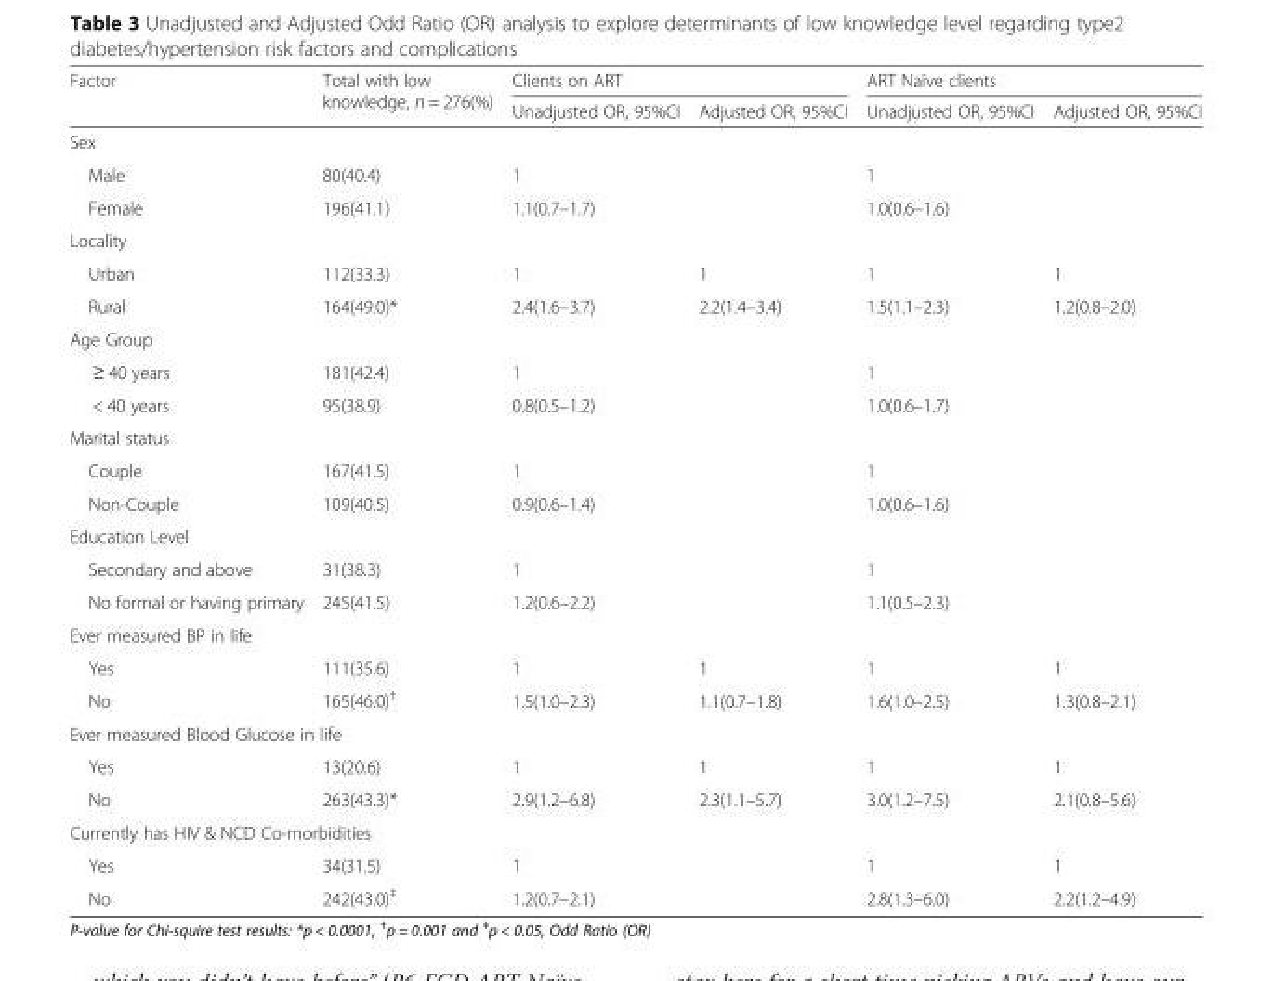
<table><thead><tr><td rowspan="2">Factor</td><td rowspan="2">Total with low knowledge, n = 276(%)</td><td colspan="2">Clients on ART</td><td colspan="2">ART Naïve clients</td></tr><tr><td>Unadjusted OR, 95%CI</td><td>Adjusted OR, 95%CI</td><td>Unadjusted OR, 95%CI</td><td>Adjusted OR, 95%CI</td></tr></thead><tbody><tr><td colspan="6">Sex</td></tr><tr><td>Male</td><td>80(40.4)</td><td>1</td><td></td><td>1</td><td></td></tr><tr><td>Female</td><td>196(41.1)</td><td>1.1(0.7–1.7)</td><td></td><td>1.0(0.6–1.6)</td><td></td></tr><tr><td colspan="6">Locality</td></tr><tr><td>Urban</td><td>112(33.3)</td><td>1</td><td>1</td><td>1</td><td>1</td></tr><tr><td>Rural</td><td>164(49.0)*</td><td>2.4(1.6–3.7)</td><td>2.2(1.4–3.4)</td><td>1.5(1.1–2.3)</td><td>1.2(0.8–2.0)</td></tr><tr><td colspan="6">Age Group</td></tr><tr><td>≥ 40 years</td><td>181(42.4)</td><td>1</td><td></td><td>1</td><td></td></tr><tr><td>&lt; 40 years</td><td>95(38.9)</td><td>0.8(0.5–1.2)</td><td></td><td>1.0(0.6–1.7)</td><td></td></tr><tr><td colspan="6">Marital status</td></tr><tr><td>Couple</td><td>167(41.5)</td><td>1</td><td></td><td>1</td><td></td></tr><tr><td>Non-Couple</td><td>109(40.5)</td><td>0.9(0.6–1.4)</td><td></td><td>1.0(0.6–1.6)</td><td></td></tr><tr><td colspan="6">Education Level</td></tr><tr><td>Secondary and above</td><td>31(38.3)</td><td>1</td><td></td><td>1</td><td></td></tr><tr><td>No formal or having primary</td><td>245(41.5)</td><td>1.2(0.6–2.2)</td><td></td><td>1.1(0.5–2.3)</td><td></td></tr><tr><td colspan="6">Ever measured BP in life</td></tr><tr><td>Yes</td><td>111(35.6)</td><td>1</td><td>1</td><td>1</td><td>1</td></tr><tr><td>No</td><td>165(46.0)<sup>†</sup></td><td>1.5(1.0–2.3)</td><td>1.1(0.7–1.8)</td><td>1.6(1.0–2.5)</td><td>1.3(0.8–2.1)</td></tr><tr><td colspan="6">Ever measured Blood Glucose in life</td></tr><tr><td>Yes</td><td>13(20.6)</td><td>1</td><td>1</td><td>1</td><td>1</td></tr><tr><td>No</td><td>263(43.3)*</td><td>2.9(1.2–6.8)</td><td>2.3(1.1–5.7)</td><td>3.0(1.2–7.5)</td><td>2.1(0.8–5.6)</td></tr><tr><td colspan="6">Currently has HIV &amp; NCD Co-morbidities</td></tr><tr><td>Yes</td><td>34(31.5)</td><td>1</td><td></td><td>1</td><td>1</td></tr><tr><td>No</td><td>242(43.0)<sup>‡</sup></td><td>1.2(0.7–2.1)</td><td></td><td>2.8(1.3–6.0)</td><td>2.2(1.2–4.9)</td></tr></tbody></table>